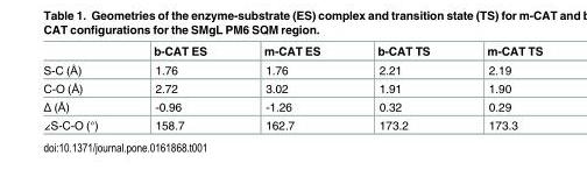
<table><thead><tr><td></td><td>b-CAT ES</td><td>m-CAT ES</td><td>b-CAT TS</td><td>m-CAT TS</td></tr></thead><tbody><tr><td>S-C (Å)</td><td>1.76</td><td>1.76</td><td>2.21</td><td>2.19</td></tr><tr><td>C-O (Å)</td><td>2.72</td><td>3.02</td><td>1.91</td><td>1.90</td></tr><tr><td>Δ (Å)</td><td>-0.96</td><td>-1.26</td><td>0.32</td><td>0.29</td></tr><tr><td>∠S-C-O (°)</td><td>158.7</td><td>162.7</td><td>173.2</td><td>173.3</td></tr></tbody></table>